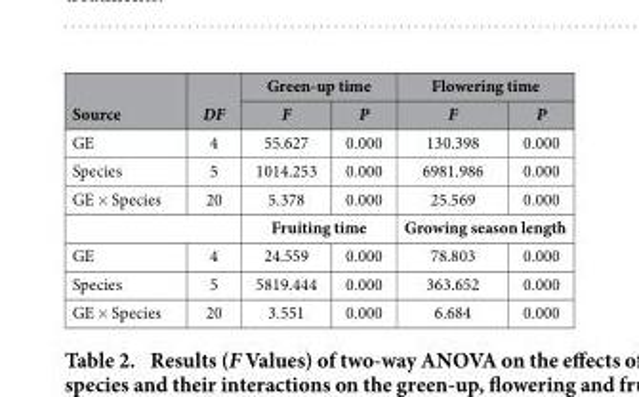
<table><thead><tr><td rowspan="2">Source</td><td rowspan="2">DF</td><td colspan="2">Green-up time</td><td colspan="2">Flowering time</td></tr><tr><td>F</td><td>P</td><td>F</td><td>P</td></tr></thead><tbody><tr><td>GE</td><td>4</td><td>55.627</td><td>0.000</td><td>130.398</td><td>0.000</td></tr><tr><td>Species</td><td>5</td><td>1014.253</td><td>0.000</td><td>6981.986</td><td>0.000</td></tr><tr><td>GE × Species</td><td>20</td><td>5.378</td><td>0.000</td><td>25.569</td><td>0.000</td></tr><tr><td colspan="2"></td><td colspan="2">Fruiting time</td><td colspan="2">Growing season length</td></tr><tr><td>GE</td><td>4</td><td>24.559</td><td>0.000</td><td>78.803</td><td>0.000</td></tr><tr><td>Species</td><td>5</td><td>5819.444</td><td>0.000</td><td>363.652</td><td>0.000</td></tr><tr><td>GE × Species</td><td>20</td><td>3.551</td><td>0.000</td><td>6.684</td><td>0.000</td></tr></tbody></table>